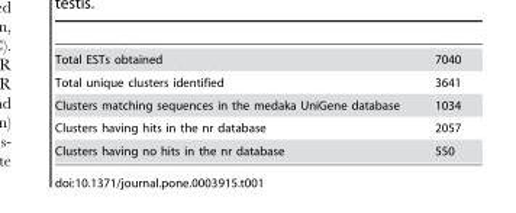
<table><tbody><tr><td>Total ESTs obtained</td><td>7040</td></tr><tr><td>Total unique clusters identified</td><td>3641</td></tr><tr><td>Clusters matching sequences in the medaka UniGene database</td><td>1034</td></tr><tr><td>Clusters having hits in the nr database</td><td>2057</td></tr><tr><td>Clusters having no hits in the nr database</td><td>550</td></tr></tbody></table>